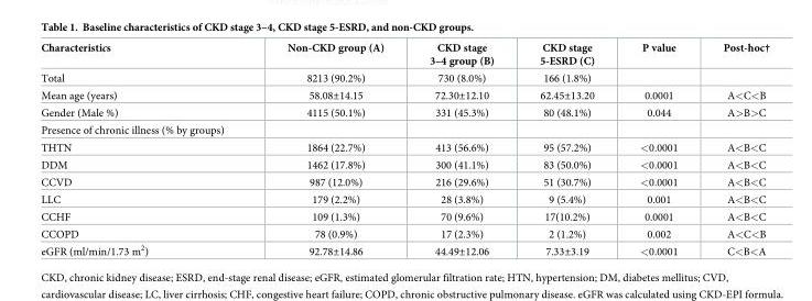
<table><thead><tr><td>Characteristics</td><td>Non-CKD group (A)</td><td>CKD stage 3–4 group (B)</td><td>CKD stage 5-ESRD (C)</td><td>P value</td><td>Post-hoc†</td></tr></thead><tbody><tr><td>Total</td><td>8213 (90.2%)</td><td>730 (8.0%)</td><td>166 (1.8%)</td><td></td><td></td></tr><tr><td>Mean age (years)</td><td>58.08±14.15</td><td>72.30±12.10</td><td>62.45±13.20</td><td>0.0001</td><td>A&lt;C&lt;B</td></tr><tr><td>Gender (Male %)</td><td>4115 (50.1%)</td><td>331 (45.3%)</td><td>80 (48.1%)</td><td>0.044</td><td>A&gt;B&gt;C</td></tr><tr><td colspan="6">Presence of chronic illness (% by groups)</td></tr><tr><td>THTN</td><td>1864 (22.7%)</td><td>413 (56.6%)</td><td>95 (57.2%)</td><td>&lt;0.0001</td><td>A&lt;B&lt;C</td></tr><tr><td>DDM</td><td>1462 (17.8%)</td><td>300 (41.1%)</td><td>83 (50.0%)</td><td>&lt;0.0001</td><td>A&lt;B&lt;C</td></tr><tr><td>CCVD</td><td>987 (12.0%)</td><td>216 (29.6%)</td><td>51 (30.7%)</td><td>&lt;0.0001</td><td>A&lt;B&lt;C</td></tr><tr><td>LLC</td><td>179 (2.2%)</td><td>28 (3.8%)</td><td>9 (5.4%)</td><td>0.001</td><td>A&lt;B&lt;C</td></tr><tr><td>CCHF</td><td>109 (1.3%)</td><td>70 (9.6%)</td><td>17(10.2%)</td><td>0.0001</td><td>A&lt;B&lt;C</td></tr><tr><td>CCOPD</td><td>78 (0.9%)</td><td>17 (2.3%)</td><td>2 (1.2%)</td><td>0.002</td><td>A&lt;C&lt;B</td></tr><tr><td>eGFR (ml/min/1.73 m<sup>2</sup>)</td><td>92.78±14.86</td><td>44.49±12.06</td><td>7.33±3.19</td><td>&lt;0.0001</td><td>C&lt;B&lt;A</td></tr></tbody></table>